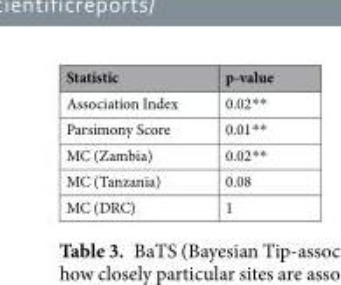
<table><thead><tr><td>Statistic</td><td>p-value</td></tr></thead><tbody><tr><td>Association Index</td><td>0.02**</td></tr><tr><td>Parsimony Score</td><td>0.01**</td></tr><tr><td>MC (Zambia)</td><td>0.02**</td></tr><tr><td>MC (Tanzania)</td><td>0.08</td></tr><tr><td>MC (DRC)</td><td>1</td></tr></tbody></table>